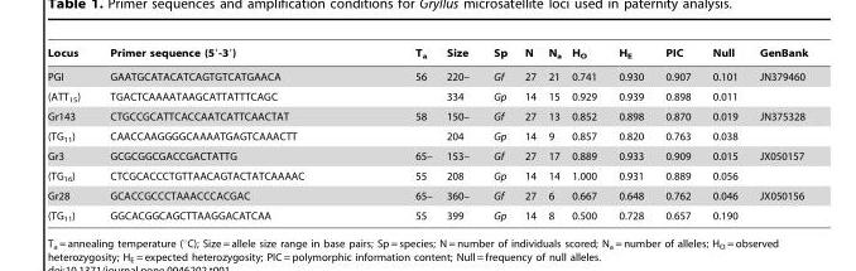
<table><thead><tr><td>Locus</td><td>Primer sequence (5′-3′)</td><td>T<sub>a</sub></td><td>Size</td><td>Sp</td><td>N</td><td>N<sub>a</sub></td><td>H<sub>O</sub></td><td>H<sub>E</sub></td><td>PIC</td><td>Null</td><td>GenBank</td></tr></thead><tbody><tr><td>PGI</td><td>GAATGCATACATCAGTGTCATGAACA</td><td>56</td><td>220–</td><td>Gf</td><td>27</td><td>21</td><td>0.741</td><td>0.930</td><td>0.907</td><td>0.101</td><td>JN379460</td></tr><tr><td>(ATT<sub>15</sub>)</td><td>TGACTCAAAATAAGCATTATTTCAGC</td><td></td><td>334</td><td>Gp</td><td>14</td><td>15</td><td>0.929</td><td>0.939</td><td>0.898</td><td>0.011</td><td></td></tr><tr><td>Gr143</td><td>CTGCCGCATTCACCAATCATTCAACTAT</td><td>58</td><td>150–</td><td>Gf</td><td>27</td><td>13</td><td>0.852</td><td>0.898</td><td>0.870</td><td>0.019</td><td>JN375328</td></tr><tr><td>(TG<sub>11</sub>)</td><td>CAACCAAGGGGCAAAATGAGTCAAACTT</td><td></td><td>204</td><td>Gp</td><td>14</td><td>9</td><td>0.857</td><td>0.820</td><td>0.763</td><td>0.038</td><td></td></tr><tr><td>Gr3</td><td>GCGCGGCGACCGACTATTG</td><td>65–</td><td>153–</td><td>Gf</td><td>27</td><td>17</td><td>0.889</td><td>0.933</td><td>0.909</td><td>0.015</td><td>JX050157</td></tr><tr><td>(TG<sub>16</sub>)</td><td>CTCGCACCCTGTTAACAGTACTATCAAAAC</td><td>55</td><td>208</td><td>Gp</td><td>14</td><td>14</td><td>1.000</td><td>0.931</td><td>0.889</td><td>0.056</td><td></td></tr><tr><td>Gr28</td><td>GCACCGCCCTAAACCCACGAC</td><td>65–</td><td>360–</td><td>Gf</td><td>27</td><td>6</td><td>0.667</td><td>0.648</td><td>0.762</td><td>0.046</td><td>JX050156</td></tr><tr><td>(TG<sub>11</sub>)</td><td>GGCACGGCAGCTTAAGGACATCAA</td><td>55</td><td>399</td><td>Gp</td><td>14</td><td>8</td><td>0.500</td><td>0.728</td><td>0.657</td><td>0.190</td><td></td></tr></tbody></table>